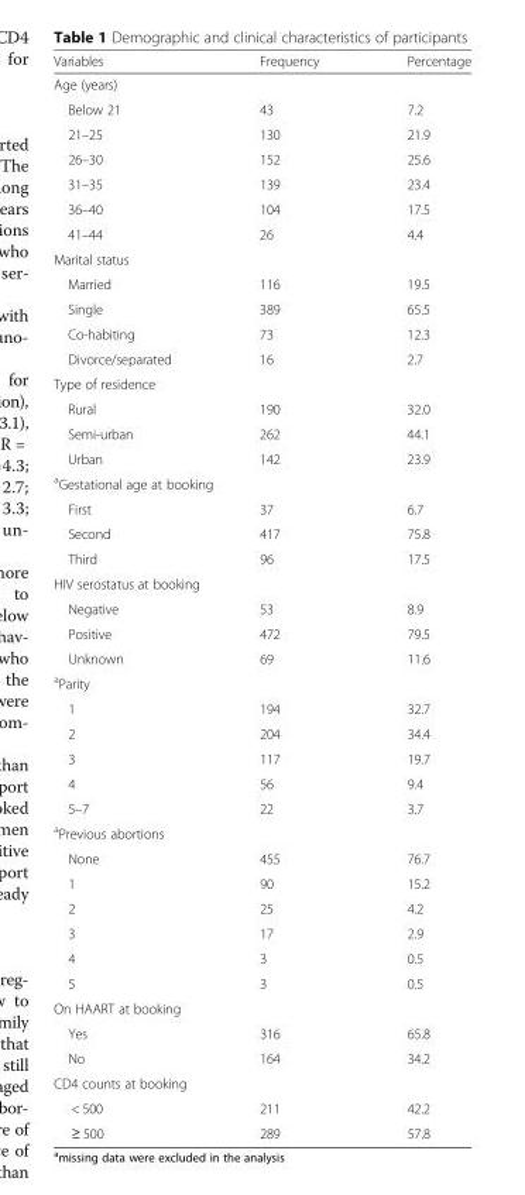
<table><thead><tr><td>Variables</td><td>Frequency</td><td>Percentage</td></tr></thead><tbody><tr><td colspan="3">Age (years)</td></tr><tr><td>Below 21</td><td>43</td><td>7.2</td></tr><tr><td>21–25</td><td>130</td><td>21.9</td></tr><tr><td>26–30</td><td>152</td><td>25.6</td></tr><tr><td>31–35</td><td>139</td><td>23.4</td></tr><tr><td>36–40</td><td>104</td><td>17.5</td></tr><tr><td>41–44</td><td>26</td><td>4.4</td></tr><tr><td colspan="3">Marital status</td></tr><tr><td>Married</td><td>116</td><td>19.5</td></tr><tr><td>Single</td><td>389</td><td>65.5</td></tr><tr><td>Co-habiting</td><td>73</td><td>12.3</td></tr><tr><td>Divorce/separated</td><td>16</td><td>2.7</td></tr><tr><td colspan="3">Type of residence</td></tr><tr><td>Rural</td><td>190</td><td>32.0</td></tr><tr><td>Semi-urban</td><td>262</td><td>44.1</td></tr><tr><td>Urban</td><td>142</td><td>23.9</td></tr><tr><td colspan="3"><sup>a</sup>Gestational age at booking</td></tr><tr><td>First</td><td>37</td><td>6.7</td></tr><tr><td>Second</td><td>417</td><td>75.8</td></tr><tr><td>Third</td><td>96</td><td>17.5</td></tr><tr><td colspan="3">HIV serostatus at booking</td></tr><tr><td>Negative</td><td>53</td><td>8.9</td></tr><tr><td>Positive</td><td>472</td><td>79.5</td></tr><tr><td>Unknown</td><td>69</td><td>11.6</td></tr><tr><td colspan="3"><sup>a</sup>Parity</td></tr><tr><td>1</td><td>194</td><td>32.7</td></tr><tr><td>2</td><td>204</td><td>34.4</td></tr><tr><td>3</td><td>117</td><td>19.7</td></tr><tr><td>4</td><td>56</td><td>9.4</td></tr><tr><td>5–7</td><td>22</td><td>3.7</td></tr><tr><td colspan="3"><sup>a</sup>Previous abortions</td></tr><tr><td>None</td><td>455</td><td>76.7</td></tr><tr><td>1</td><td>90</td><td>15.2</td></tr><tr><td>2</td><td>25</td><td>4.2</td></tr><tr><td>3</td><td>17</td><td>2.9</td></tr><tr><td>4</td><td>3</td><td>0.5</td></tr><tr><td>5</td><td>3</td><td>0.5</td></tr><tr><td colspan="3">On HAART at booking</td></tr><tr><td>Yes</td><td>316</td><td>65.8</td></tr><tr><td>No</td><td>164</td><td>34.2</td></tr><tr><td colspan="3">CD4 counts at booking</td></tr><tr><td>&lt; 500</td><td>211</td><td>42.2</td></tr><tr><td>≥ 500</td><td>289</td><td>57.8</td></tr></tbody></table>